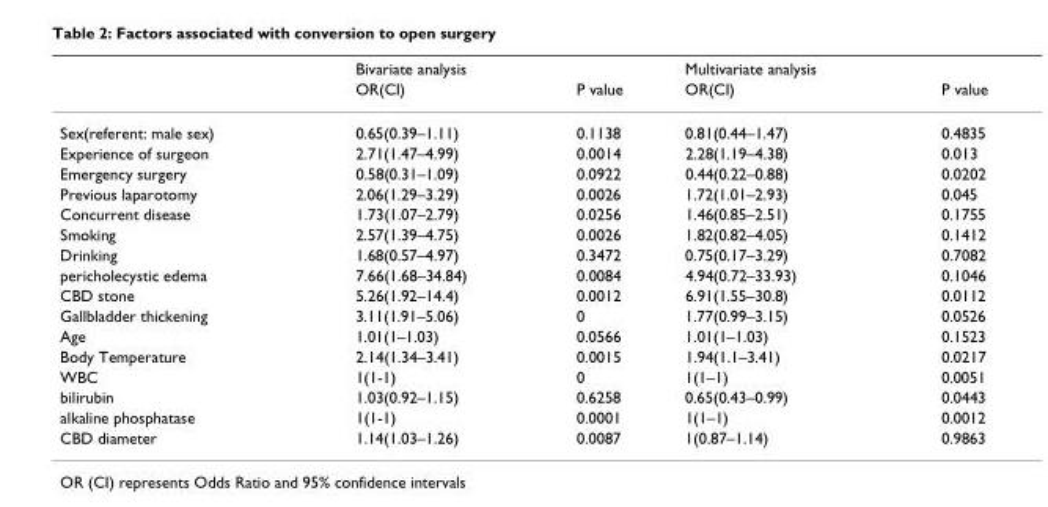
<table><thead><tr><td rowspan="2"></td><td rowspan="2">Bivariate analysis OR(CI)</td><td rowspan="2">P value</td><td rowspan="2">Multivariate analysis OR(CI)</td><td rowspan="2">P value</td></tr><tr></tr></thead><tbody><tr><td>Sex(referent: male sex)</td><td>0.65(0.39–1.11)</td><td>0.1138</td><td>0.81(0.44–1.47)</td><td>0.4835</td></tr><tr><td>Experience of surgeon</td><td>2.71(1.47–4.99)</td><td>0.0014</td><td>2.28(1.19–4.38)</td><td>0.013</td></tr><tr><td>Emergency surgery</td><td>0.58(0.31–1.09)</td><td>0.0922</td><td>0.44(0.22–0.88)</td><td>0.0202</td></tr><tr><td>Previous laparotomy</td><td>2.06(1.29–3.29)</td><td>0.0026</td><td>1.72(1.01–2.93)</td><td>0.045</td></tr><tr><td>Concurrent disease</td><td>1.73(1.07–2.79)</td><td>0.0256</td><td>1.46(0.85–2.51)</td><td>0.1755</td></tr><tr><td>Smoking</td><td>2.57(1.39–4.75)</td><td>0.0026</td><td>1.82(0.82–4.05)</td><td>0.1412</td></tr><tr><td>Drinking</td><td>1.68(0.57–4.97)</td><td>0.3472</td><td>0.75(0.17–3.29)</td><td>0.7082</td></tr><tr><td>pericholecystic edema</td><td>7.66(1.68–34.84)</td><td>0.0084</td><td>4.94(0.72–33.93)</td><td>0.1046</td></tr><tr><td>CBD stone</td><td>5.26(1.92–14.4)</td><td>0.0012</td><td>6.91(1.55–30.8)</td><td>0.0112</td></tr><tr><td>Gallbladder thickening</td><td>3.11(1.91–5.06)</td><td>0</td><td>1.77(0.99–3.15)</td><td>0.0526</td></tr><tr><td>Age</td><td>1.01(1–1.03)</td><td>0.0566</td><td>1.01(1–1.03)</td><td>0.1523</td></tr><tr><td>Body Temperature</td><td>2.14(1.34–3.41)</td><td>0.0015</td><td>1.94(1.1–3.41)</td><td>0.0217</td></tr><tr><td>WBC</td><td>1(1-1)</td><td>0</td><td>1(1–1)</td><td>0.0051</td></tr><tr><td>bilirubin</td><td>1.03(0.92–1.15)</td><td>0.6258</td><td>0.65(0.43–0.99)</td><td>0.0443</td></tr><tr><td>alkaline phosphatase</td><td>1(1-1)</td><td>0.0001</td><td>1(1–1)</td><td>0.0012</td></tr><tr><td>CBD diameter</td><td>1.14(1.03–1.26)</td><td>0.0087</td><td>1(0.87–1.14)</td><td>0.9863</td></tr></tbody></table>